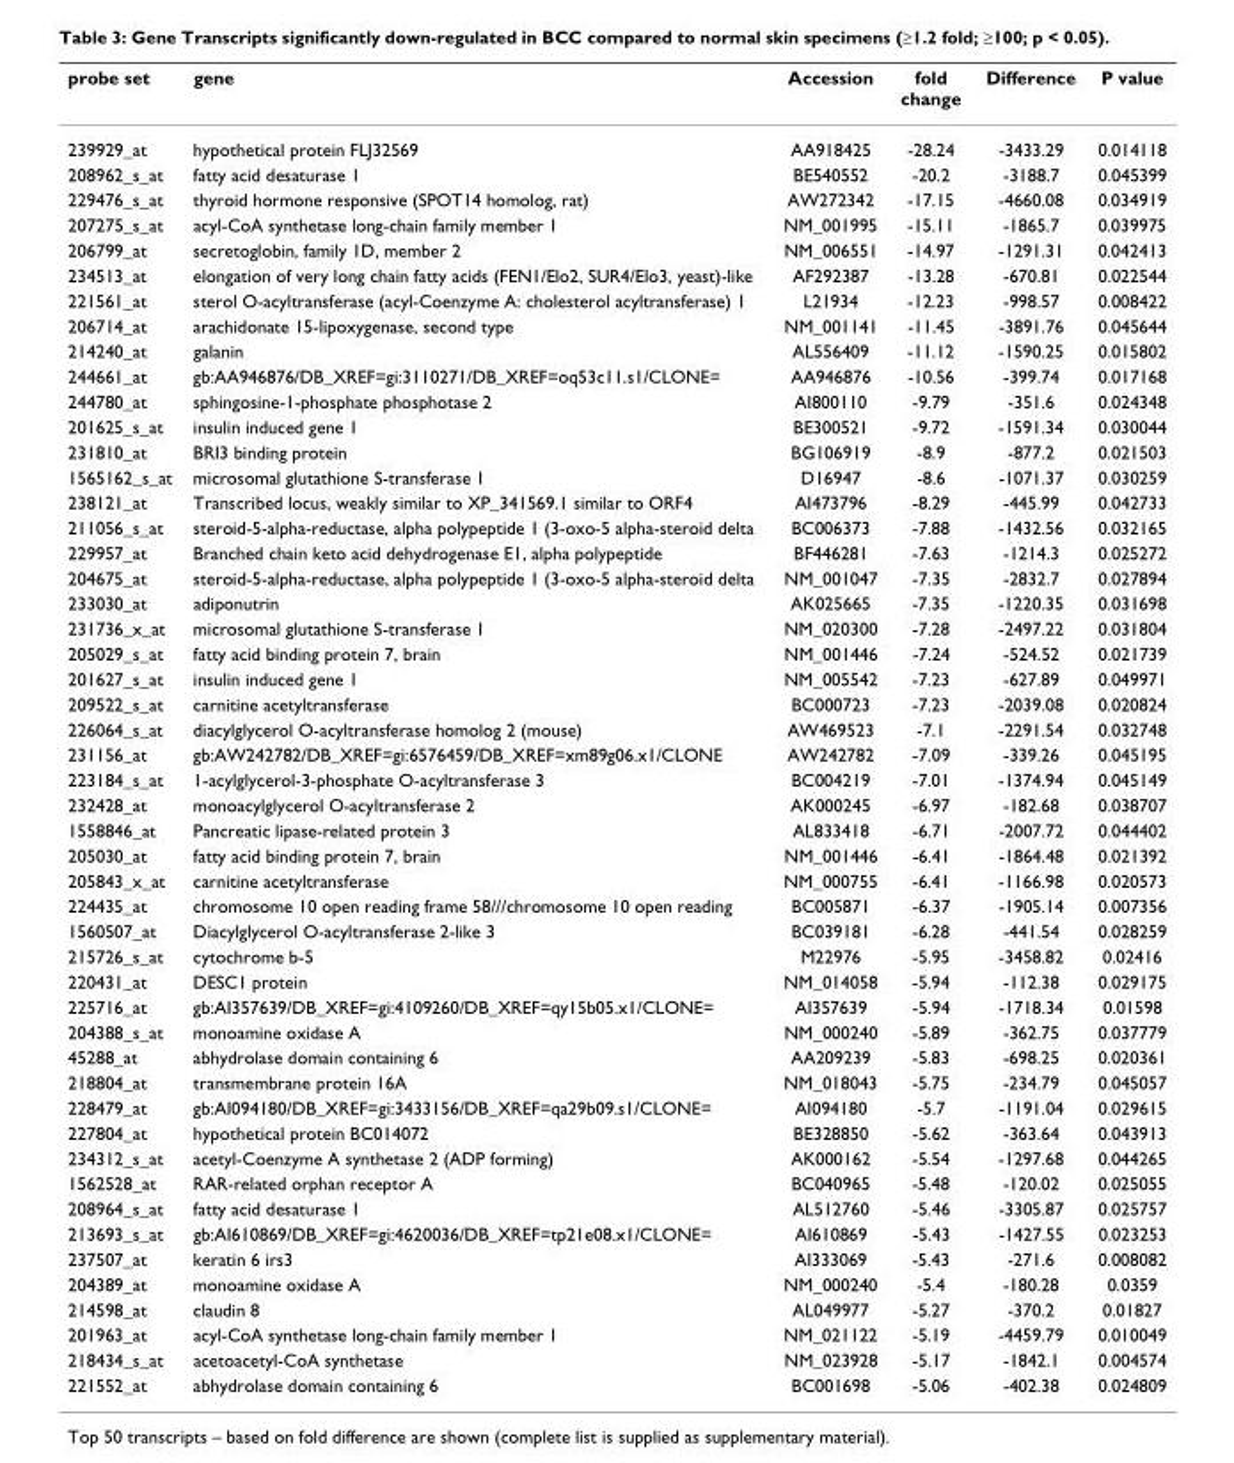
<table><thead><tr><td>probe set</td><td>gene</td><td>Accession</td><td>fold change</td><td>Difference</td><td>P value</td></tr></thead><tbody><tr><td>239929_at</td><td>hypothetical protein FLJ32569</td><td>AA918425</td><td>-28.24</td><td>-3433.29</td><td>0.014118</td></tr><tr><td>208962_s_at</td><td>fatty acid desaturase 1</td><td>BE540552</td><td>-20.2</td><td>-3188.7</td><td>0.045399</td></tr><tr><td>229476_s_at</td><td>thyroid hormone responsive (SPOT14 homolog, rat)</td><td>AW272342</td><td>-17.15</td><td>-4660.08</td><td>0.034919</td></tr><tr><td>207275_s_at</td><td>acyl-CoA synthetase long-chain family member 1</td><td>NM_001995</td><td>-15.11</td><td>-1865.7</td><td>0.039975</td></tr><tr><td>206799_at</td><td>secretoglobin, family 1D, member 2</td><td>NM_006551</td><td>-14.97</td><td>-1291.31</td><td>0.042413</td></tr><tr><td>234513_at</td><td>elongation of very long chain fatty acids (FEN1/Elo2, SUR4/Elo3, yeast)-like</td><td>AF292387</td><td>-13.28</td><td>-670.81</td><td>0.022544</td></tr><tr><td>221561_at</td><td>sterol O-acyltransferase (acyl-Coenzyme A: cholesterol acyltransferase) 1</td><td>L21934</td><td>-12.23</td><td>-998.57</td><td>0.008422</td></tr><tr><td>206714_at</td><td>arachidonate 15-lipoxygenase, second type</td><td>NM_001141</td><td>-11.45</td><td>-3891.76</td><td>0.045644</td></tr><tr><td>214240_at</td><td>galanin</td><td>AL556409</td><td>-11.12</td><td>-1590.25</td><td>0.015802</td></tr><tr><td>244661_at</td><td>gb:AA946876/DB_XREF=gi:3110271/DB_XREF=oq53c11.s1/CLONE=</td><td>AA946876</td><td>-10.56</td><td>-399.74</td><td>0.017168</td></tr><tr><td>244780_at</td><td>sphingosine-1-phosphate phosphotase 2</td><td>AI800110</td><td>-9.79</td><td>-351.6</td><td>0.024348</td></tr><tr><td>201625_s_at</td><td>insulin induced gene 1</td><td>BE300521</td><td>-9.72</td><td>-1591.34</td><td>0.030044</td></tr><tr><td>231810_at</td><td>BRI3 binding protein</td><td>BG106919</td><td>-8.9</td><td>-877.2</td><td>0.021503</td></tr><tr><td>1565162_s_at</td><td>microsomal glutathione S-transferase 1</td><td>D16947</td><td>-8.6</td><td>-1071.37</td><td>0.030259</td></tr><tr><td>238121_at</td><td>Transcribed locus, weakly similar to XP_341569.1 similar to ORF4</td><td>AI473796</td><td>-8.29</td><td>-445.99</td><td>0.042733</td></tr><tr><td>211056_s_at</td><td>steroid-5-alpha-reductase, alpha polypeptide 1 (3-oxo-5 alpha-steroid delta</td><td>BC006373</td><td>-7.88</td><td>-1432.56</td><td>0.032165</td></tr><tr><td>229957_at</td><td>Branched chain keto acid dehydrogenase E1, alpha polypeptide</td><td>BF446281</td><td>-7.63</td><td>-1214.3</td><td>0.025272</td></tr><tr><td>204675_at</td><td>steroid-5-alpha-reductase, alpha polypeptide 1 (3-oxo-5 alpha-steroid delta</td><td>NM_001047</td><td>-7.35</td><td>-2832.7</td><td>0.027894</td></tr><tr><td>233030_at</td><td>adiponutrin</td><td>AK025665</td><td>-7.35</td><td>-1220.35</td><td>0.031698</td></tr><tr><td>231736_x_at</td><td>microsomal glutathione S-transferase 1</td><td>NM_020300</td><td>-7.28</td><td>-2497.22</td><td>0.031804</td></tr><tr><td>205029_s_at</td><td>fatty acid binding protein 7, brain</td><td>NM_001446</td><td>-7.24</td><td>-524.52</td><td>0.021739</td></tr><tr><td>201627_s_at</td><td>insulin induced gene 1</td><td>NM_005542</td><td>-7.23</td><td>-627.89</td><td>0.049971</td></tr><tr><td>209522_s_at</td><td>carnitine acetyltransferase</td><td>BC000723</td><td>-7.23</td><td>-2039.08</td><td>0.020824</td></tr><tr><td>226064_s_at</td><td>diacylglycerol O-acyltransferase homolog 2 (mouse)</td><td>AW469523</td><td>-7.1</td><td>-2291.54</td><td>0.032748</td></tr><tr><td>231156_at</td><td>gb:AW242782/DB_XREF=gi:6576459/DB_XREF=xm89g06.x1/CLONE</td><td>AW242782</td><td>-7.09</td><td>-339.26</td><td>0.045195</td></tr><tr><td>223184_s_at</td><td>1-acylglycerol-3-phosphate O-acyltransferase 3</td><td>BC004219</td><td>-7.01</td><td>-1374.94</td><td>0.045149</td></tr><tr><td>232428_at</td><td>monoacylglycerol O-acyltransferase 2</td><td>AK000245</td><td>-6.97</td><td>-182.68</td><td>0.038707</td></tr><tr><td>1558846_at</td><td>Pancreatic lipase-related protein 3</td><td>AL833418</td><td>-6.71</td><td>-2007.72</td><td>0.044402</td></tr><tr><td>205030_at</td><td>fatty acid binding protein 7, brain</td><td>NM_001446</td><td>-6.41</td><td>-1864.48</td><td>0.021392</td></tr><tr><td>205843_x_at</td><td>carnitine acetyltransferase</td><td>NM_000755</td><td>-6.41</td><td>-1166.98</td><td>0.020573</td></tr><tr><td>224435_at</td><td>chromosome 10 open reading frame 58///chromosome 10 open reading</td><td>BC005871</td><td>-6.37</td><td>-1905.14</td><td>0.007356</td></tr><tr><td>1560507_at</td><td>Diacylglycerol O-acyltransferase 2-like 3</td><td>BC039181</td><td>-6.28</td><td>-441.54</td><td>0.028259</td></tr><tr><td>215726_s_at</td><td>cytochrome b-5</td><td>M22976</td><td>-5.95</td><td>-3458.82</td><td>0.02416</td></tr><tr><td>220431_at</td><td>DESC1 protein</td><td>NM_014058</td><td>-5.94</td><td>-112.38</td><td>0.029175</td></tr><tr><td>225716_at</td><td>gb:AI357639/DB_XREF=gi:4109260/DB_XREF=qy15b05.x1/CLONE=</td><td>AI357639</td><td>-5.94</td><td>-1718.34</td><td>0.01598</td></tr><tr><td>204388_s_at</td><td>monoamine oxidase A</td><td>NM_000240</td><td>-5.89</td><td>-362.75</td><td>0.037779</td></tr><tr><td>45288_at</td><td>abhydrolase domain containing 6</td><td>AA209239</td><td>-5.83</td><td>-698.25</td><td>0.020361</td></tr><tr><td>218804_at</td><td>transmembrane protein 16A</td><td>NM_018043</td><td>-5.75</td><td>-234.79</td><td>0.045057</td></tr><tr><td>228479_at</td><td>gb:AI094180/DB_XREF=gi:3433156/DB_XREF=qa29b09.s1/CLONE=</td><td>AI094180</td><td>-5.7</td><td>-1191.04</td><td>0.029615</td></tr><tr><td>227804_at</td><td>hypothetical protein BC014072</td><td>BE328850</td><td>-5.62</td><td>-363.64</td><td>0.043913</td></tr><tr><td>234312_s_at</td><td>acetyl-Coenzyme A synthetase 2 (ADP forming)</td><td>AK000162</td><td>-5.54</td><td>-1297.68</td><td>0.044265</td></tr><tr><td>1562528_at</td><td>RAR-related orphan receptor A</td><td>BC040965</td><td>-5.48</td><td>-120.02</td><td>0.025055</td></tr><tr><td>208964_s_at</td><td>fatty acid desaturase 1</td><td>AL512760</td><td>-5.46</td><td>-3305.87</td><td>0.025757</td></tr><tr><td>213693_s_at</td><td>gb:AI610869/DB_XREF=gi:4620036/DB_XREF=tp21e08.x1/CLONE=</td><td>AI610869</td><td>-5.43</td><td>-1427.55</td><td>0.023253</td></tr><tr><td>237507_at</td><td>keratin 6 irs3</td><td>AI333069</td><td>-5.43</td><td>-271.6</td><td>0.008082</td></tr><tr><td>204389_at</td><td>monoamine oxidase A</td><td>NM_000240</td><td>-5.4</td><td>-180.28</td><td>0.0359</td></tr><tr><td>214598_at</td><td>claudin 8</td><td>AL049977</td><td>-5.27</td><td>-370.2</td><td>0.01827</td></tr><tr><td>201963_at</td><td>acyl-CoA synthetase long-chain family member 1</td><td>NM_021122</td><td>-5.19</td><td>-4459.79</td><td>0.010049</td></tr><tr><td>218434_s_at</td><td>acetoacetyl-CoA synthetase</td><td>NM_023928</td><td>-5.17</td><td>-1842.1</td><td>0.004574</td></tr><tr><td>221552_at</td><td>abhydrolase domain containing 6</td><td>BC001698</td><td>-5.06</td><td>-402.38</td><td>0.024809</td></tr></tbody></table>